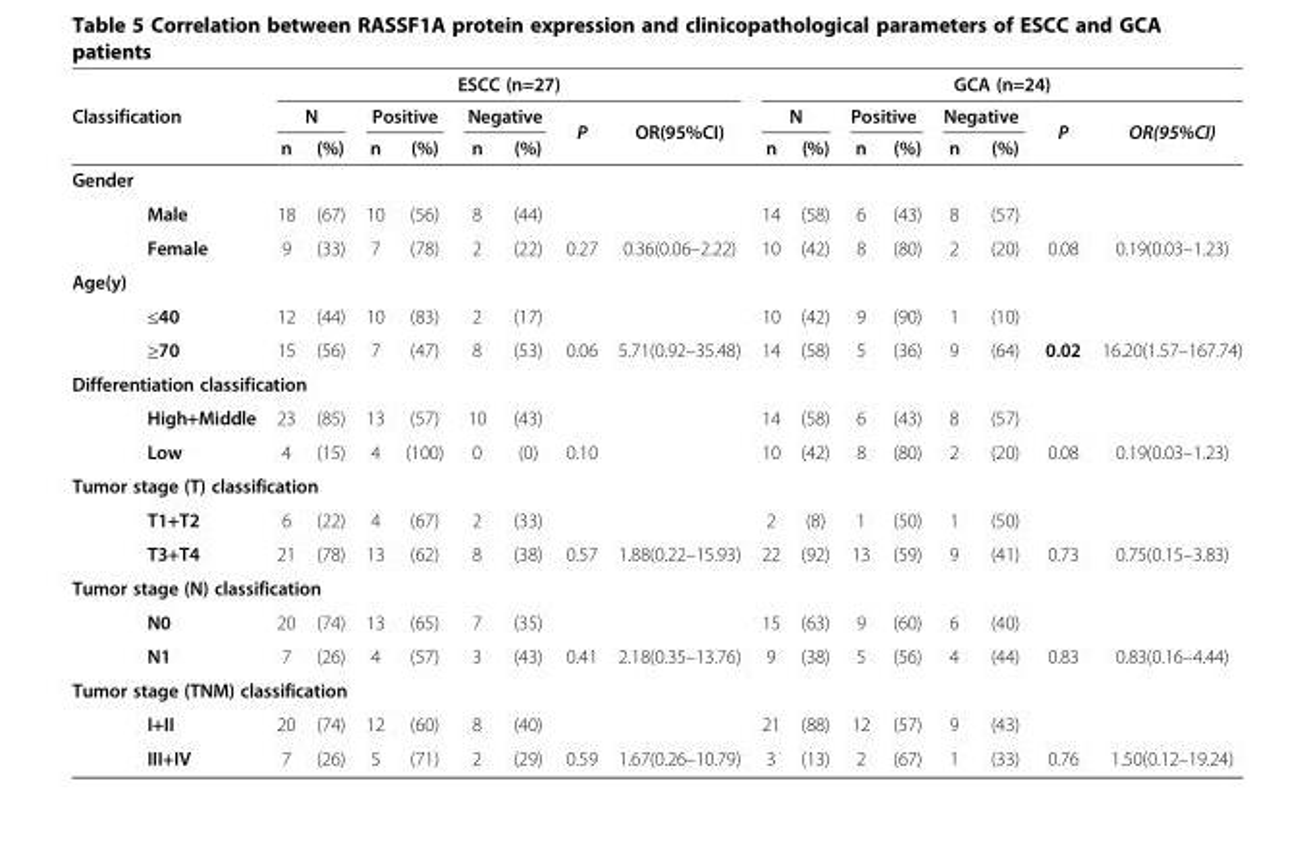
<table><thead><tr><td rowspan="4" colspan="2">Classification Gender</td><td colspan="8">ESCC (n=27)</td><td colspan="8">GCA (n=24)</td></tr><tr><td colspan="2">N</td><td colspan="2">Positive</td><td colspan="2">Negative</td><td rowspan="4">P</td><td rowspan="4">OR(95%CI)</td><td colspan="2">N</td><td colspan="2">Positive</td><td colspan="2">Negative</td><td rowspan="4">P</td><td rowspan="4">OR(95%CI)</td></tr><tr><td rowspan="3">n 18</td><td rowspan="3">(%) (67)</td><td rowspan="3">n 10</td><td rowspan="3">(%) (56)</td><td rowspan="3">n 8</td><td rowspan="3">(%) (44)</td><td rowspan="3">n 14</td><td rowspan="3">(%) (58)</td><td rowspan="3">n 6</td><td rowspan="3">(%) (43)</td><td rowspan="3">n 8</td><td rowspan="3">(%) (57)</td></tr><tr></tr><tr><td></td><td>Male</td></tr></thead><tbody><tr><td></td><td>Female</td><td>9</td><td>(33)</td><td>7</td><td>(78)</td><td>2</td><td>(22)</td><td>0.27</td><td>0.36(0.06–2.22)</td><td>10</td><td>(42)</td><td>8</td><td>(80)</td><td>2</td><td>(20)</td><td>0.08</td><td>0.19(0.03–1.23)</td></tr><tr><td colspan="18">Age(y)</td></tr><tr><td></td><td>≤40</td><td>12</td><td>(44)</td><td>10</td><td>(83)</td><td>2</td><td>(17)</td><td></td><td></td><td>10</td><td>(42)</td><td>9</td><td>(90)</td><td>1</td><td>(10)</td><td></td><td></td></tr><tr><td></td><td>≥70</td><td>15</td><td>(56)</td><td>7</td><td>(47)</td><td>8</td><td>(53)</td><td>0.06</td><td>5.71(0.92–35.48)</td><td>14</td><td>(58)</td><td>5</td><td>(36)</td><td>9</td><td>(64)</td><td>0.02</td><td>16.20(1.57–167.74)</td></tr><tr><td colspan="18">Differentiation classification</td></tr><tr><td></td><td>High+Middle</td><td>23</td><td>(85)</td><td>13</td><td>(57)</td><td>10</td><td>(43)</td><td></td><td></td><td>14</td><td>(58)</td><td>6</td><td>(43)</td><td>8</td><td>(57)</td><td></td><td></td></tr><tr><td></td><td>Low</td><td>4</td><td>(15)</td><td>4</td><td>(100)</td><td>0</td><td>(0)</td><td>0.10</td><td></td><td>10</td><td>(42)</td><td>8</td><td>(80)</td><td>2</td><td>(20)</td><td>0.08</td><td>0.19(0.03–1.23)</td></tr><tr><td colspan="18">Tumor stage (T) classification</td></tr><tr><td></td><td>T1+T2</td><td>6</td><td>(22)</td><td>4</td><td>(67)</td><td>2</td><td>(33)</td><td></td><td></td><td>2</td><td>(8)</td><td>1</td><td>(50)</td><td>1</td><td>(50)</td><td></td><td></td></tr><tr><td></td><td>T3+T4</td><td>21</td><td>(78)</td><td>13</td><td>(62)</td><td>8</td><td>(38)</td><td>0.57</td><td>1.88(0.22–15.93)</td><td>22</td><td>(92)</td><td>13</td><td>(59)</td><td>9</td><td>(41)</td><td>0.73</td><td>0.75(0.15–3.83)</td></tr><tr><td colspan="18">Tumor stage (N) classification</td></tr><tr><td></td><td>N0</td><td>20</td><td>(74)</td><td>13</td><td>(65)</td><td>7</td><td>(35)</td><td></td><td></td><td>15</td><td>(63)</td><td>9</td><td>(60)</td><td>6</td><td>(40)</td><td></td><td></td></tr><tr><td></td><td>N1</td><td>7</td><td>(26)</td><td>4</td><td>(57)</td><td>3</td><td>(43)</td><td>0.41</td><td>2.18(0.35–13.76)</td><td>9</td><td>(38)</td><td>5</td><td>(56)</td><td>4</td><td>(44)</td><td>0.83</td><td>0.83(0.16–4.44)</td></tr><tr><td colspan="18">Tumor stage (TNM) classification</td></tr><tr><td></td><td>I+II</td><td>20</td><td>(74)</td><td>12</td><td>(60)</td><td>8</td><td>(40)</td><td></td><td></td><td>21</td><td>(88)</td><td>12</td><td>(57)</td><td>9</td><td>(43)</td><td></td><td></td></tr><tr><td></td><td>III+IV</td><td>7</td><td>(26)</td><td>5</td><td>(71)</td><td>2</td><td>(29)</td><td>0.59</td><td>1.67(0.26–10.79)</td><td>3</td><td>(13)</td><td>2</td><td>(67)</td><td>1</td><td>(33)</td><td>0.76</td><td>1.50(0.12–19.24)</td></tr></tbody></table>